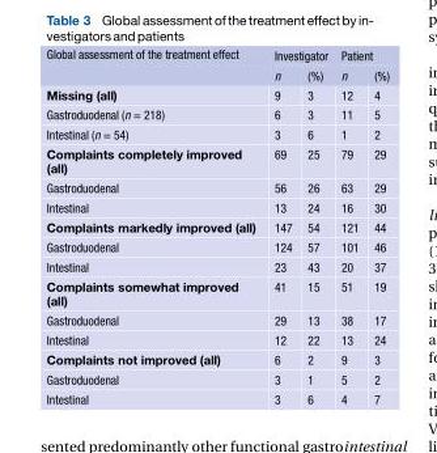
<table><thead><tr><td rowspan="2">Global assessment of the treatment effect</td><td colspan="2">Investigator</td><td colspan="2">Patient</td></tr><tr><td>n</td><td>(%)</td><td>n</td><td>(%)</td></tr></thead><tbody><tr><td>Missing (all)</td><td>9</td><td>3</td><td>12</td><td>4</td></tr><tr><td>Gastroduodenal (n = 218)</td><td>6</td><td>3</td><td>11</td><td>5</td></tr><tr><td>Intestinal (n = 54)</td><td>3</td><td>6</td><td>1</td><td>2</td></tr><tr><td>Complaints completely improved (all)</td><td>69</td><td>25</td><td>79</td><td>29</td></tr><tr><td>Gastroduodenal</td><td>56</td><td>26</td><td>63</td><td>29</td></tr><tr><td>Intestinal</td><td>13</td><td>24</td><td>16</td><td>30</td></tr><tr><td>Complaints markedly improved (all)</td><td>147</td><td>54</td><td>121</td><td>44</td></tr><tr><td>Gastroduodenal</td><td>124</td><td>57</td><td>101</td><td>46</td></tr><tr><td>Intestinal</td><td>23</td><td>43</td><td>20</td><td>37</td></tr><tr><td>Complaints somewhat improved (all)</td><td>41</td><td>15</td><td>51</td><td>19</td></tr><tr><td>Gastroduodenal</td><td>29</td><td>13</td><td>38</td><td>17</td></tr><tr><td>Intestinal</td><td>12</td><td>22</td><td>13</td><td>24</td></tr><tr><td>Complaints not improved (all)</td><td>6</td><td>2</td><td>9</td><td>3</td></tr><tr><td>Gastroduodenal</td><td>3</td><td>1</td><td>5</td><td>2</td></tr><tr><td>Intestinal</td><td>3</td><td>6</td><td>4</td><td>7</td></tr></tbody></table>